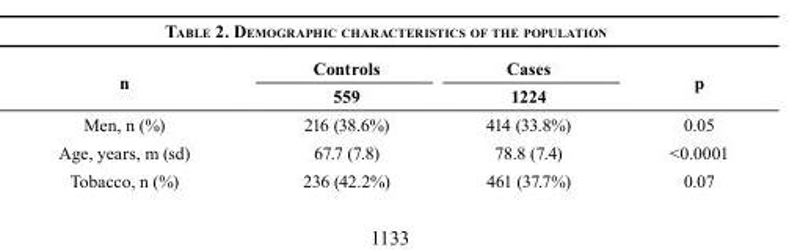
<table><thead><tr><td rowspan="2">n</td><td rowspan="2">Controls 559</td><td rowspan="2">Cases 1224</td><td rowspan="2">p</td></tr><tr></tr></thead><tbody><tr><td>Men, n (%)</td><td>216 (38.6%)</td><td>414 (33.8%)</td><td>0.05</td></tr><tr><td>Age, years, m (sd)</td><td>67.7 (7.8)</td><td>78.8 (7.4)</td><td>&lt;0.0001</td></tr><tr><td>Tobacco, n (%)</td><td>236 (42.2%)</td><td>461 (37.7%)</td><td>0.07</td></tr></tbody></table>